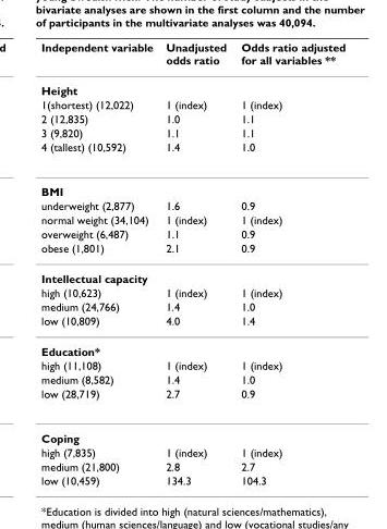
<table><thead><tr><td>Independent variable</td><td>Unadjusted odds ratio</td><td>Odds ratio adjusted for all variables **</td></tr></thead><tbody><tr><td colspan="3">Height</td></tr><tr><td>1(shortest) (12,022)</td><td>1 (index)</td><td>1 (index)</td></tr><tr><td>2 (12,835)</td><td>1.0</td><td>1.1</td></tr><tr><td>3 (9,820)</td><td>1.1</td><td>1.1</td></tr><tr><td>4 (tallest) (10,592)</td><td>1.4</td><td>1.0</td></tr><tr><td colspan="3">BMI</td></tr><tr><td>underweight (2,877)</td><td>1.6</td><td>0.9</td></tr><tr><td>normal weight (34,104)</td><td>1 (index)</td><td>1 (index)</td></tr><tr><td>overweight (6,487)</td><td>1.1</td><td>0.9</td></tr><tr><td>obese (1,801)</td><td>2.1</td><td>0.9</td></tr><tr><td colspan="3">Intellectual capacity</td></tr><tr><td>high (10,623)</td><td>1 (index)</td><td>1 (index)</td></tr><tr><td>medium (24,766)</td><td>1.4</td><td>1.0</td></tr><tr><td>low (10,809)</td><td>4.0</td><td>1.4</td></tr><tr><td colspan="3">Education*</td></tr><tr><td>high (11,108)</td><td>1 (index)</td><td>1 (index)</td></tr><tr><td>medium (8,582)</td><td>1.4</td><td>1.0</td></tr><tr><td>low (28,719)</td><td>2.7</td><td>0.9</td></tr><tr><td colspan="3">Coping</td></tr><tr><td>high (7,835)</td><td>1 (index)</td><td>1 (index)</td></tr><tr><td>medium (21,800)</td><td>2.8</td><td>2.7</td></tr><tr><td>low (10,459)</td><td>134.3</td><td>104.3</td></tr></tbody></table>